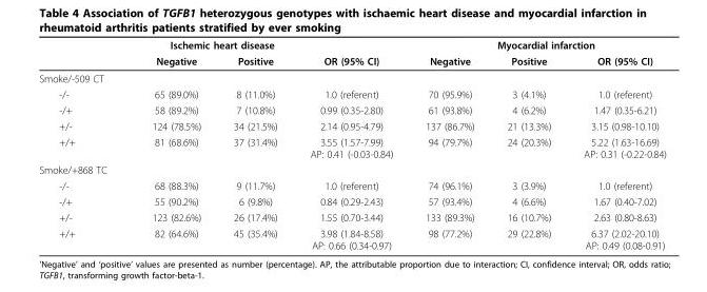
<table><thead><tr><td colspan="4">Ischemic heart disease</td><td colspan="3">Myocardial infarction</td></tr><tr><td></td><td>Negative</td><td>Positive</td><td>OR (95% CI)</td><td>Negative</td><td>Positive</td><td>OR (95% CI)</td></tr></thead><tbody><tr><td colspan="7">Smoke/-509 CT</td></tr><tr><td>-/-</td><td>65 (89.0%)</td><td>8 (11.0%)</td><td>1.0 (referent)</td><td>70 (95.9%)</td><td>3 (4.1%)</td><td>1.0 (referent)</td></tr><tr><td>-/+</td><td>58 (89.2%)</td><td>7 (10.8%)</td><td>0.99 (0.35-2.80)</td><td>61 (93.8%)</td><td>4 (6.2%)</td><td>1.47 (0.35-6.21)</td></tr><tr><td>+/-</td><td>124 (78.5%)</td><td>34 (21.5%)</td><td>2.14 (0.95-4.79)</td><td>137 (86.7%)</td><td>21 (13.3%)</td><td>3.15 (0.98-10.10)</td></tr><tr><td>+/+</td><td>81 (68.6%)</td><td>37 (31.4%)</td><td>3.55 (1.57-7.99) AP: 0.41 (-0.03-0.84)</td><td>94 (79.7%)</td><td>24 (20.3%)</td><td>5.22 (1.63-16.69) AP: 0.31 (-0.22-0.84)</td></tr><tr><td colspan="7">Smoke/+868 TC</td></tr><tr><td>-/-</td><td>68 (88.3%)</td><td>9 (11.7%)</td><td>1.0 (referent)</td><td>74 (96.1%)</td><td>3 (3.9%)</td><td>1.0 (referent)</td></tr><tr><td>-/+</td><td>55 (90.2%)</td><td>6 (9.8%)</td><td>0.84 (0.29-2.43)</td><td>57 (93.4%)</td><td>4 (6.6%)</td><td>1.67 (0.40-7.02)</td></tr><tr><td>+/-</td><td>123 (82.6%)</td><td>26 (17.4%)</td><td>1.55 (0.70-3.44)</td><td>133 (89.3%)</td><td>16 (10.7%)</td><td>2.63 (0.80-8.63)</td></tr><tr><td>+/+</td><td>82 (64.6%)</td><td>45 (35.4%)</td><td>3.98 (1.84-8.58) AP: 0.66 (0.34-0.97)</td><td>98 (77.2%)</td><td>29 (22.8%)</td><td>6.37 (2.02-20.10) AP: 0.49 (0.08-0.91)</td></tr></tbody></table>